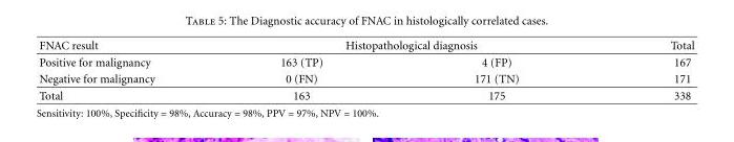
<table><thead><tr><td rowspan="2">FNAC result Positive for malignancy</td><td colspan="2">Histopathological diagnosis</td><td rowspan="2">Total 167</td></tr><tr><td>163 (TP)</td><td>4 (FP)</td></tr></thead><tbody><tr><td>Negative for malignancy</td><td>0 (FN)</td><td>171 (TN)</td><td>171</td></tr><tr><td>Total</td><td>163</td><td>175</td><td>338</td></tr></tbody></table>